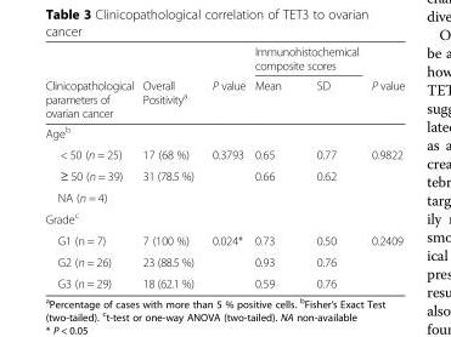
<table><thead><tr><td rowspan="2">Clinicopathological parameters of ovarian cancer</td><td rowspan="2">Overall Positivity<sup>a</sup></td><td rowspan="2">P value</td><td colspan="2">Immunohistochemical composite scores</td><td rowspan="2">P value</td></tr><tr><td>Mean</td><td>SD</td></tr></thead><tbody><tr><td colspan="6">Age<sup>b</sup></td></tr><tr><td>&lt; 50 (n = 25)</td><td>17 (68 %)</td><td>0.3793</td><td>0.65</td><td>0.77</td><td>0.9822</td></tr><tr><td>≥ 50 (n = 39)</td><td>31 (78.5 %)</td><td></td><td>0.66</td><td>0.62</td><td></td></tr><tr><td colspan="6">NA (n = 4)</td></tr><tr><td colspan="6">Grade<sup>c</sup></td></tr><tr><td>G1 (n = 7)</td><td>7 (100 %)</td><td>0.024*</td><td>0.73</td><td>0.50</td><td>0.2409</td></tr><tr><td>G2 (n = 26)</td><td>23 (88.5 %)</td><td></td><td>0.93</td><td>0.76</td><td></td></tr><tr><td>G3 (n = 29)</td><td>18 (62.1 %)</td><td></td><td>0.59</td><td>0.76</td><td></td></tr></tbody></table>